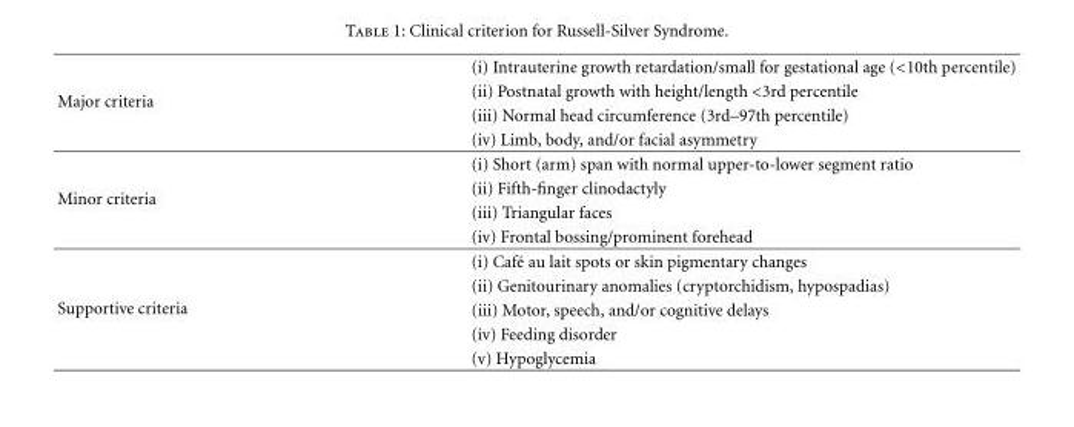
<table><tbody><tr><td rowspan="4">Major criteria</td><td>(i) Intrauterine growth retardation/small for gestational age (&lt;10th percentile)</td></tr><tr><td>(ii) Postnatal growth with height/length &lt;3rd percentile</td></tr><tr><td>(iii) Normal head circumference (3rd–97th percentile)</td></tr><tr><td>(iv) Limb, body, and/or facial asymmetry</td></tr><tr><td rowspan="4">Minor criteria</td><td>(i) Short (arm) span with normal upper-to-lower segment ratio</td></tr><tr><td>(ii) Fifth-finger clinodactyly</td></tr><tr><td>(iii) Triangular faces</td></tr><tr><td>(iv) Frontal bossing/prominent forehead</td></tr><tr><td rowspan="5">Supportive criteria</td><td>(i) Caf´e au lait spots or skin pigmentary changes</td></tr><tr><td>(ii) Genitourinary anomalies (cryptorchidism, hypospadias)</td></tr><tr><td>(iii) Motor, speech, and/or cognitive delays</td></tr><tr><td>(iv) Feeding disorder</td></tr><tr><td>(v) Hypoglycemia</td></tr></tbody></table>